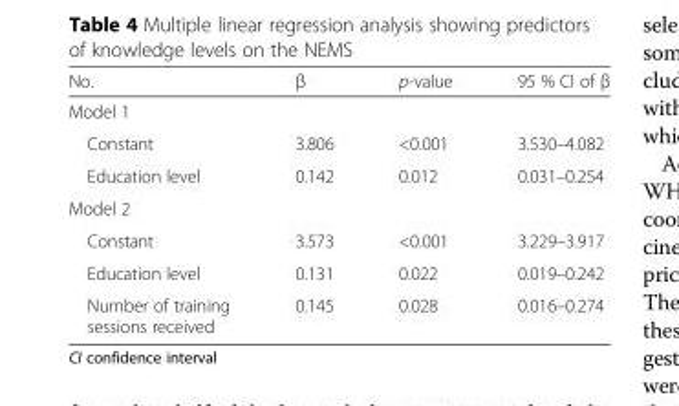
<table><thead><tr><td>No.</td><td>β</td><td>p-value</td><td>95 % CI of β</td></tr></thead><tbody><tr><td colspan="4">Model 1</td></tr><tr><td>Constant</td><td>3.806</td><td>&lt;0.001</td><td>3.530–4.082</td></tr><tr><td>Education level</td><td>0.142</td><td>0.012</td><td>0.031–0.254</td></tr><tr><td colspan="4">Model 2</td></tr><tr><td>Constant</td><td>3.573</td><td>&lt;0.001</td><td>3.229–3.917</td></tr><tr><td>Education level</td><td>0.131</td><td>0.022</td><td>0.019–0.242</td></tr><tr><td>Number of training sessions received</td><td>0.145</td><td>0.028</td><td>0.016–0.274</td></tr></tbody></table>